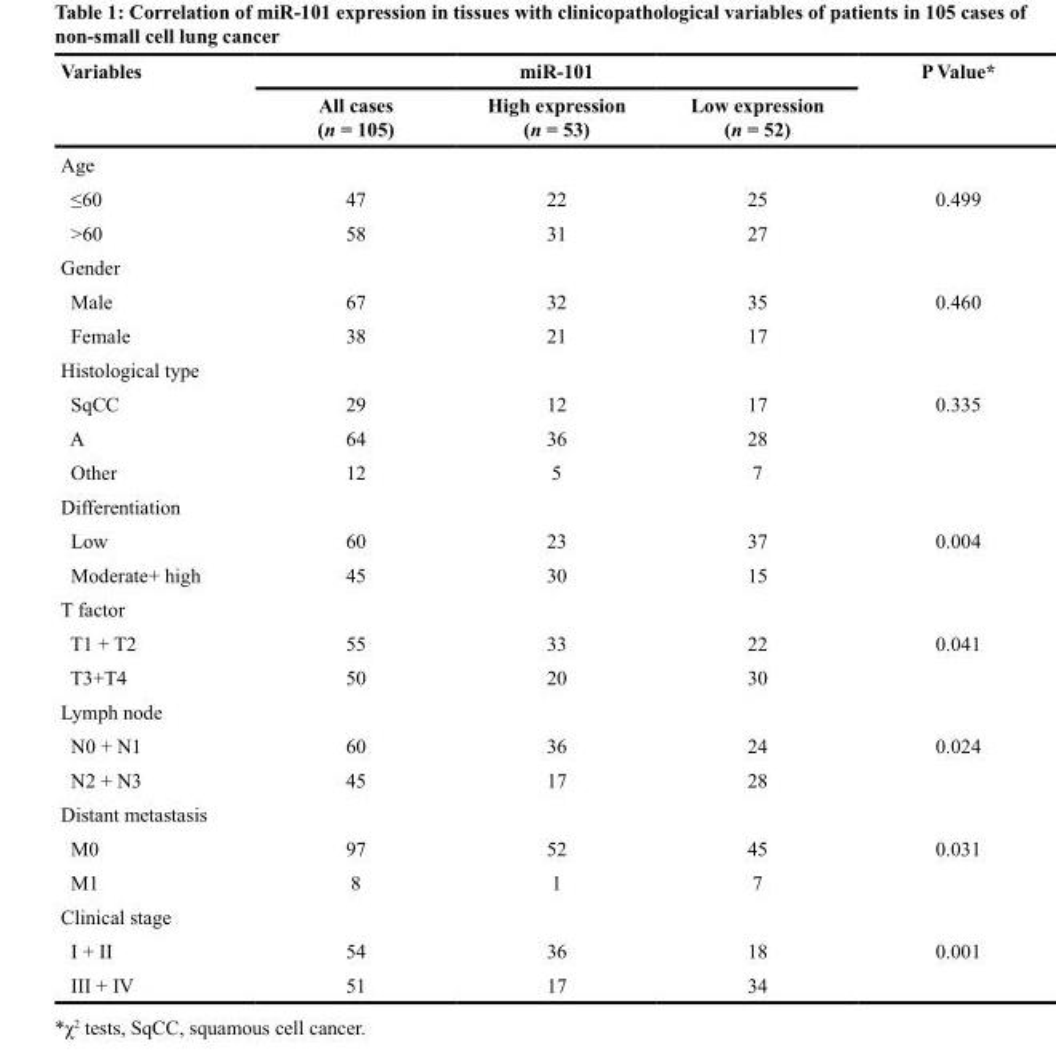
<table><thead><tr><td rowspan="2">Variables</td><td colspan="3">miR-101</td><td rowspan="2">P Value*</td></tr><tr><td>All cases (n = 105)</td><td>High expression (n = 53)</td><td>Low expression (n = 52)</td></tr></thead><tbody><tr><td colspan="5">Age</td></tr><tr><td>≤60</td><td>47</td><td>22</td><td>25</td><td>0.499</td></tr><tr><td>&gt;60</td><td>58</td><td>31</td><td>27</td><td></td></tr><tr><td colspan="5">Gender</td></tr><tr><td>Male</td><td>67</td><td>32</td><td>35</td><td>0.460</td></tr><tr><td>Female</td><td>38</td><td>21</td><td>17</td><td></td></tr><tr><td colspan="5">Histological type</td></tr><tr><td>SqCC</td><td>29</td><td>12</td><td>17</td><td>0.335</td></tr><tr><td>A</td><td>64</td><td>36</td><td>28</td><td></td></tr><tr><td>Other</td><td>12</td><td>5</td><td>7</td><td></td></tr><tr><td colspan="5">Differentiation</td></tr><tr><td>Low</td><td>60</td><td>23</td><td>37</td><td>0.004</td></tr><tr><td>Moderate+ high</td><td>45</td><td>30</td><td>15</td><td></td></tr><tr><td colspan="5">T factor</td></tr><tr><td>T1 + T2</td><td>55</td><td>33</td><td>22</td><td>0.041</td></tr><tr><td>T3+T4</td><td>50</td><td>20</td><td>30</td><td></td></tr><tr><td colspan="5">Lymph node</td></tr><tr><td>N0 + N1</td><td>60</td><td>36</td><td>24</td><td>0.024</td></tr><tr><td>N2 + N3</td><td>45</td><td>17</td><td>28</td><td></td></tr><tr><td colspan="5">Distant metastasis</td></tr><tr><td>M0</td><td>97</td><td>52</td><td>45</td><td>0.031</td></tr><tr><td>M1</td><td>8</td><td>1</td><td>7</td><td></td></tr><tr><td colspan="5">Clinical stage</td></tr><tr><td>I + II</td><td>54</td><td>36</td><td>18</td><td>0.001</td></tr><tr><td>III + IV</td><td>51</td><td>17</td><td>34</td><td></td></tr></tbody></table>